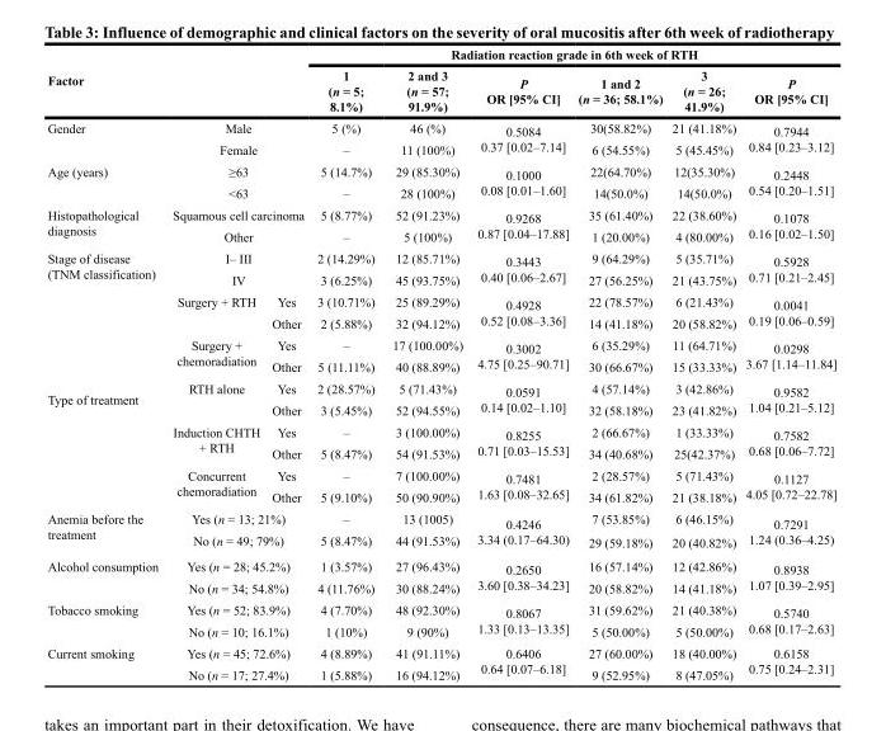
<table><thead><tr><td rowspan="2" colspan="3">Factor</td><td colspan="6">Radiation reaction grade in 6th week of RTH</td></tr><tr><td>1 (n = 5; 8.1%)</td><td>2 and 3 (n = 57; 91.9%)</td><td>P OR [95% CI]</td><td>1 and 2 (n = 36; 58.1%)</td><td>3 (n = 26; 41.9%)</td><td>P OR [95% CI]</td></tr></thead><tbody><tr><td rowspan="2">Gender</td><td colspan="2">Male</td><td>5 (%)</td><td>46 (%)</td><td rowspan="2">0.5084 0.37 [0.02–7.14]</td><td>30(58.82%)</td><td>21 (41.18%)</td><td rowspan="2">0.7944 0.84 [0.23–3.12]</td></tr><tr><td colspan="2">Female</td><td>–</td><td>11 (100%)</td><td>6 (54.55%)</td><td>5 (45.45%)</td></tr><tr><td rowspan="2">Age (years)</td><td colspan="2">≥63</td><td>5 (14.7%)</td><td>29 (85.30%)</td><td rowspan="2">0.1000 0.08 [0.01–1.60]</td><td>22(64.70%)</td><td>12(35.30%)</td><td rowspan="2">0.2448 0.54 [0.20–1.51]</td></tr><tr><td colspan="2">&lt;63</td><td>–</td><td>28 (100%)</td><td>14(50.0%)</td><td>14(50.0%)</td></tr><tr><td rowspan="2">Histopathological diagnosis</td><td colspan="2">Squamous cell carcinoma</td><td>5 (8.77%)</td><td>52 (91.23%)</td><td rowspan="2">0.9268 0.87 [0.04–17.88]</td><td>35 (61.40%)</td><td>22 (38.60%)</td><td rowspan="2">0.1078 0.16 [0.02–1.50]</td></tr><tr><td colspan="2">Other</td><td>–</td><td>5 (100%)</td><td>1 (20.00%)</td><td>4 (80.00%)</td></tr><tr><td rowspan="2">Stage of disease (TNM classification)</td><td colspan="2">I– III</td><td>2 (14.29%)</td><td>12 (85.71%)</td><td rowspan="2">0.3443 0.40 [0.06–2.67]</td><td>9 (64.29%)</td><td>5 (35.71%)</td><td rowspan="2">0.5928 0.71 [0.21–2.45]</td></tr><tr><td colspan="2">IV</td><td>3 (6.25%)</td><td>45 (93.75%)</td><td>27 (56.25%)</td><td>21 (43.75%)</td></tr><tr><td rowspan="10">Type of treatment</td><td rowspan="2">Surgery + RTH</td><td>Yes</td><td>3 (10.71%)</td><td>25 (89.29%)</td><td rowspan="2">0.4928 0.52 [0.08–3.36]</td><td>22 (78.57%)</td><td>6 (21.43%)</td><td rowspan="2">0.0041 0.19 [0.06–0.59]</td></tr><tr><td>Other</td><td>2 (5.88%)</td><td>32 (94.12%)</td><td>14 (41.18%)</td><td>20 (58.82%)</td></tr><tr><td rowspan="2">Surgery + chemoradiation</td><td>Yes</td><td>–</td><td>17 (100.00%)</td><td rowspan="2">0.3002 4.75 [0.25–90.71]</td><td>6 (35.29%)</td><td>11 (64.71%)</td><td rowspan="2">0.0298 3.67 [1.14–11.84]</td></tr><tr><td>Other</td><td>5 (11.11%)</td><td>40 (88.89%)</td><td>30 (66.67%)</td><td>15 (33.33%)</td></tr><tr><td rowspan="2">RTH alone</td><td>Yes</td><td>2 (28.57%)</td><td>5 (71.43%)</td><td rowspan="2">0.0591 0.14 [0.02–1.10]</td><td>4 (57.14%)</td><td>3 (42.86%)</td><td rowspan="2">0.9582 1.04 [0.21–5.12]</td></tr><tr><td>Other</td><td>3 (5.45%)</td><td>52 (94.55%)</td><td>32 (58.18%)</td><td>23 (41.82%)</td></tr><tr><td rowspan="2">Induction CHTH + RTH</td><td>Yes</td><td>–</td><td>3 (100.00%)</td><td rowspan="2">0.8255 0.71 [0.03–15.53]</td><td>2 (66.67%)</td><td>1 (33.33%)</td><td rowspan="2">0.7582 0.68 [0.06–7.72]</td></tr><tr><td>Other</td><td>5 (8.47%)</td><td>54 (91.53%)</td><td>34 (40.68%)</td><td>25(42.37%)</td></tr><tr><td rowspan="2">Concurrent chemoradiation</td><td>Yes</td><td>–</td><td>7 (100.00%)</td><td rowspan="2">0.7481 1.63 [0.08–32.65]</td><td>2 (28.57%)</td><td>5 (71.43%)</td><td rowspan="2">0.1127 4.05 [0.72–22.78]</td></tr><tr><td>Other</td><td>5 (9.10%)</td><td>50 (90.90%)</td><td>34 (61.82%)</td><td>21 (38.18%)</td></tr><tr><td rowspan="2">Anemia before the treatment</td><td colspan="2">Yes (n = 13; 21%)</td><td>–</td><td>13 (1005)</td><td rowspan="2">0.4246 3.34 (0.17–64.30)</td><td>7 (53.85%)</td><td>6 (46.15%)</td><td rowspan="2">0.7291 1.24 (0.36–4.25)</td></tr><tr><td colspan="2">No (n = 49; 79%)</td><td>5 (8.47%)</td><td>44 (91.53%)</td><td>29 (59.18%)</td><td>20 (40.82%)</td></tr><tr><td rowspan="2">Alcohol consumption</td><td colspan="2">Yes (n = 28; 45.2%)</td><td>1 (3.57%)</td><td>27 (96.43%)</td><td rowspan="2">0.2650 3.60 [0.38–34.23]</td><td>16 (57.14%)</td><td>12 (42.86%)</td><td rowspan="2">0.8938 1.07 [0.39–2.95]</td></tr><tr><td colspan="2">No (n = 34; 54.8%)</td><td>4 (11.76%)</td><td>30 (88.24%)</td><td>20 (58.82%)</td><td>14 (41.18%)</td></tr><tr><td rowspan="2">Tobacco smoking</td><td colspan="2">Yes (n = 52; 83.9%)</td><td>4 (7.70%)</td><td>48 (92.30%)</td><td rowspan="2">0.8067 1.33 [0.13–13.35]</td><td>31 (59.62%)</td><td>21 (40.38%)</td><td rowspan="2">0.5740 0.68 [0.17–2.63]</td></tr><tr><td colspan="2">No (n = 10; 16.1%)</td><td>1 (10%)</td><td>9 (90%)</td><td>5 (50.00%)</td><td>5 (50.00%)</td></tr><tr><td rowspan="2">Current smoking</td><td colspan="2">Yes (n = 45; 72.6%)</td><td>4 (8.89%)</td><td>41 (91.11%)</td><td rowspan="2">0.6406 0.64 [0.07–6.18]</td><td>27 (60.00%)</td><td>18 (40.00%)</td><td rowspan="2">0.6158 0.75 [0.24–2.31]</td></tr><tr><td colspan="2">No (n = 17; 27.4%)</td><td>1 (5.88%)</td><td>16 (94.12%)</td><td>9 (52.95%)</td><td>8 (47.05%)</td></tr></tbody></table>